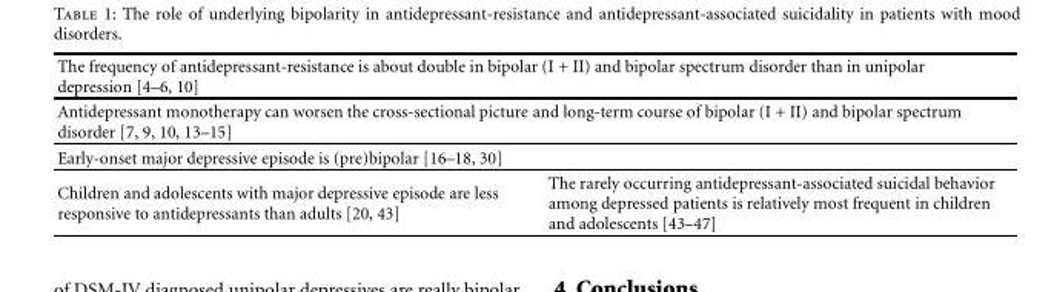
<table><tbody><tr><td colspan="2">The frequency of antidepressant-resistance is about double in bipolar (I + II) and bipolar spectrum disorder than in unipolar depression [4–6, 10]</td></tr><tr><td colspan="2">Antidepressant monotherapy can worsen the cross-sectional picture and long-term course of bipolar (I + II) and bipolar spectrum disorder [7, 9, 10, 13–15]</td></tr><tr><td colspan="2">Early-onset major depressive episode is (pre)bipolar [16–18, 30]</td></tr><tr><td>Children and adolescents with major depressive episode are less responsive to antidepressants than adults [20, 43]</td><td>The rarely occurring antidepressant-associated suicidal behavior among depressed patients is relatively most frequent in children and adolescents [43–47]</td></tr></tbody></table>